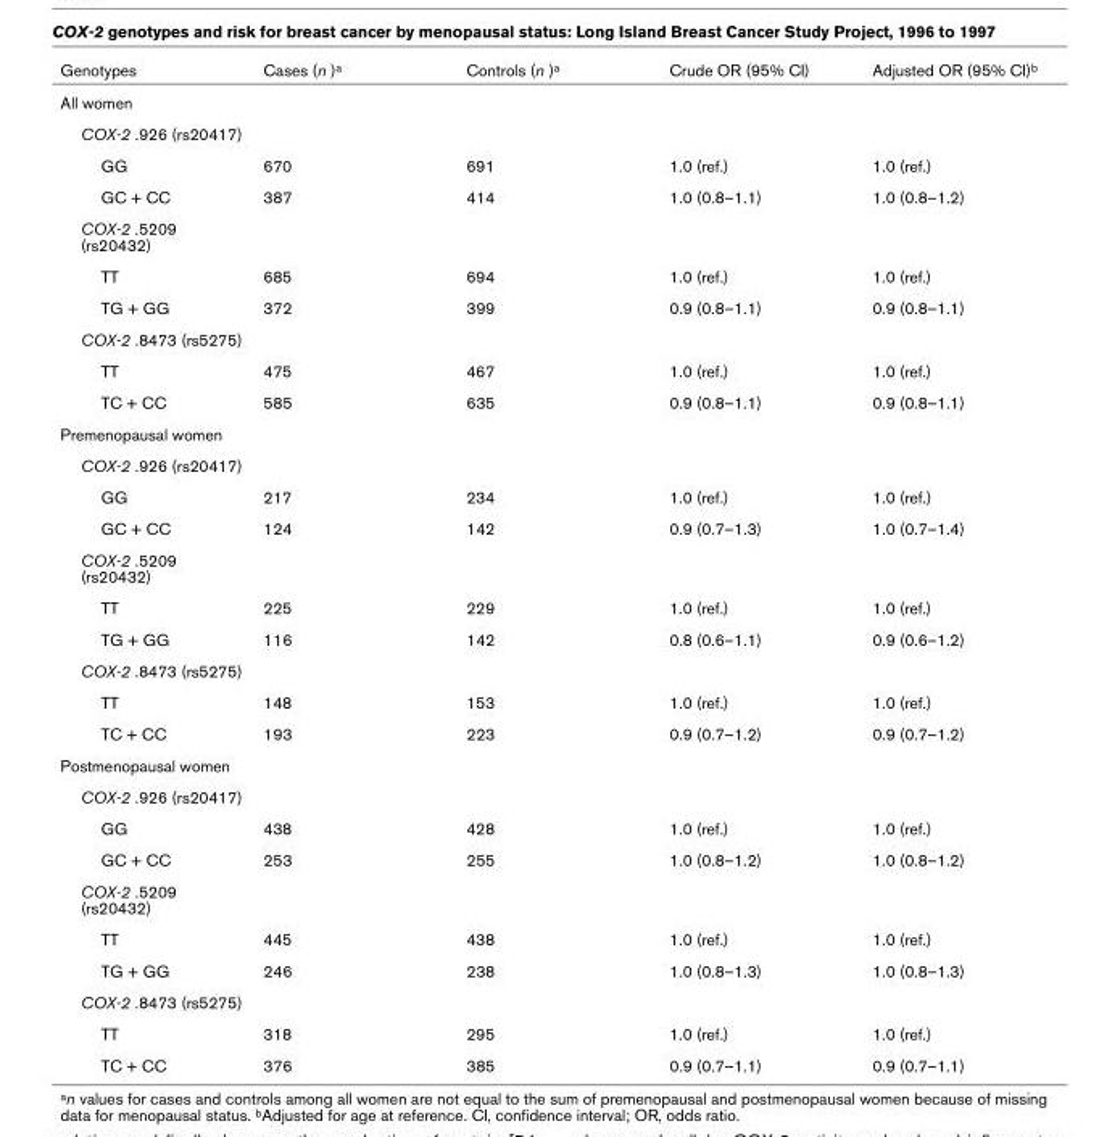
<table><thead><tr><td>Genotypes</td><td>Cases (n )a</td><td>Controls (n )a</td><td>Crude OR (95% CI)</td><td>Adjusted OR (95% CI)b</td></tr></thead><tbody><tr><td colspan="5">All women</td></tr><tr><td colspan="5">COX-2 .926 (rs20417)</td></tr><tr><td>GG</td><td>670</td><td>691</td><td>1.0 (ref.)</td><td>1.0 (ref.)</td></tr><tr><td>GC + CC</td><td>387</td><td>414</td><td>1.0 (0.8–1.1)</td><td>1.0 (0.8–1.2)</td></tr><tr><td colspan="5">COX-2 .5209 (rs20432)</td></tr><tr><td>TT</td><td>685</td><td>694</td><td>1.0 (ref.)</td><td>1.0 (ref.)</td></tr><tr><td>TG + GG</td><td>372</td><td>399</td><td>0.9 (0.8–1.1)</td><td>0.9 (0.8–1.1)</td></tr><tr><td colspan="5">COX-2 .8473 (rs5275)</td></tr><tr><td>TT</td><td>475</td><td>467</td><td>1.0 (ref.)</td><td>1.0 (ref.)</td></tr><tr><td>TC + CC</td><td>585</td><td>635</td><td>0.9 (0.8–1.1)</td><td>0.9 (0.8–1.1)</td></tr><tr><td colspan="5">Premenopausal women</td></tr><tr><td colspan="5">COX-2 .926 (rs20417)</td></tr><tr><td>GG</td><td>217</td><td>234</td><td>1.0 (ref.)</td><td>1.0 (ref.)</td></tr><tr><td>GC + CC</td><td>124</td><td>142</td><td>0.9 (0.7–1.3)</td><td>1.0 (0.7–1.4)</td></tr><tr><td colspan="5">COX-2 .5209 (rs20432)</td></tr><tr><td>TT</td><td>225</td><td>229</td><td>1.0 (ref.)</td><td>1.0 (ref.)</td></tr><tr><td>TG + GG</td><td>116</td><td>142</td><td>0.8 (0.6–1.1)</td><td>0.9 (0.6–1.2)</td></tr><tr><td colspan="5">COX-2 .8473 (rs5275)</td></tr><tr><td>TT</td><td>148</td><td>153</td><td>1.0 (ref.)</td><td>1.0 (ref.)</td></tr><tr><td>TC + CC</td><td>193</td><td>223</td><td>0.9 (0.7–1.2)</td><td>0.9 (0.7–1.2)</td></tr><tr><td colspan="5">Postmenopausal women</td></tr><tr><td colspan="5">COX-2 .926 (rs20417)</td></tr><tr><td>GG</td><td>438</td><td>428</td><td>1.0 (ref.)</td><td>1.0 (ref.)</td></tr><tr><td>GC + CC</td><td>253</td><td>255</td><td>1.0 (0.8–1.2)</td><td>1.0 (0.8–1.2)</td></tr><tr><td colspan="5">COX-2 .5209 (rs20432)</td></tr><tr><td>TT</td><td>445</td><td>438</td><td>1.0 (ref.)</td><td>1.0 (ref.)</td></tr><tr><td>TG + GG</td><td>246</td><td>238</td><td>1.0 (0.8–1.3)</td><td>1.0 (0.8–1.3)</td></tr><tr><td colspan="5">COX-2 .8473 (rs5275)</td></tr><tr><td>TT</td><td>318</td><td>295</td><td>1.0 (ref.)</td><td>1.0 (ref.)</td></tr><tr><td>TC + CC</td><td>376</td><td>385</td><td>0.9 (0.7–1.1)</td><td>0.9 (0.7–1.1)</td></tr></tbody></table>